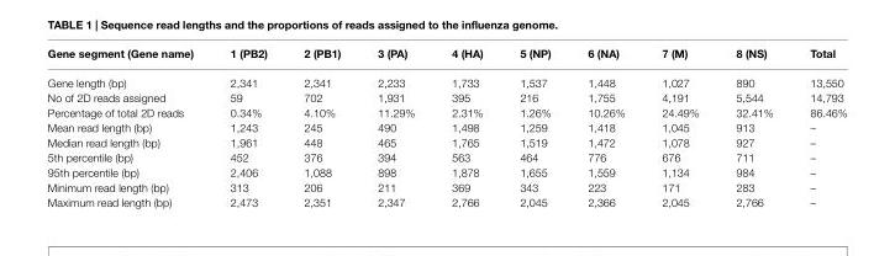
<table><thead><tr><td>Gene segment (Gene name)</td><td>1 (PB2)</td><td>2 (PB1)</td><td>3 (PA)</td><td>4 (HA)</td><td>5 (NP)</td><td>6 (NA)</td><td>7 (M)</td><td>8 (NS)</td><td>Total</td></tr></thead><tbody><tr><td>Gene length (bp)</td><td>2,341</td><td>2,341</td><td>2,233</td><td>1,733</td><td>1,537</td><td>1,448</td><td>1,027</td><td>890</td><td>13,550</td></tr><tr><td>No of 2D reads assigned</td><td>59</td><td>702</td><td>1,931</td><td>395</td><td>216</td><td>1,755</td><td>4,191</td><td>5,544</td><td>14,793</td></tr><tr><td>Percentage of total 2D reads</td><td>0.34%</td><td>4.10%</td><td>11.29%</td><td>2.31%</td><td>1.26%</td><td>10.26%</td><td>24.49%</td><td>32.41%</td><td>86.46%</td></tr><tr><td>Mean read length (bp)</td><td>1,243</td><td>245</td><td>490</td><td>1,498</td><td>1,259</td><td>1,418</td><td>1,045</td><td>913</td><td>–</td></tr><tr><td>Median read length (bp)</td><td>1,961</td><td>448</td><td>465</td><td>1,765</td><td>1,519</td><td>1,472</td><td>1,078</td><td>927</td><td>–</td></tr><tr><td>5th percentile (bp)</td><td>452</td><td>376</td><td>394</td><td>563</td><td>464</td><td>776</td><td>676</td><td>711</td><td>–</td></tr><tr><td>95th percentile (bp)</td><td>2,406</td><td>1,088</td><td>898</td><td>1,878</td><td>1,655</td><td>1,559</td><td>1,134</td><td>984</td><td>–</td></tr><tr><td>Minimum read length (bp)</td><td>313</td><td>206</td><td>211</td><td>369</td><td>343</td><td>223</td><td>171</td><td>283</td><td>–</td></tr><tr><td>Maximum read length (bp)</td><td>2,473</td><td>2,351</td><td>2,347</td><td>2,766</td><td>2,045</td><td>2,366</td><td>2,045</td><td>2,766</td><td>–</td></tr></tbody></table>